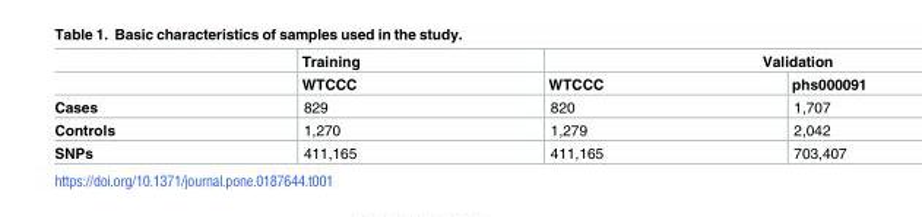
<table><thead><tr><td rowspan="2"></td><td rowspan="2">Training WTCCC</td><td rowspan="2">WTCCC</td><td rowspan="2">Validation phs000091</td></tr><tr></tr></thead><tbody><tr><td>Cases</td><td>829</td><td>820</td><td>1,707</td></tr><tr><td>Controls</td><td>1,270</td><td>1,279</td><td>2,042</td></tr><tr><td>SNPs</td><td>411,165</td><td>411,165</td><td>703,407</td></tr></tbody></table>